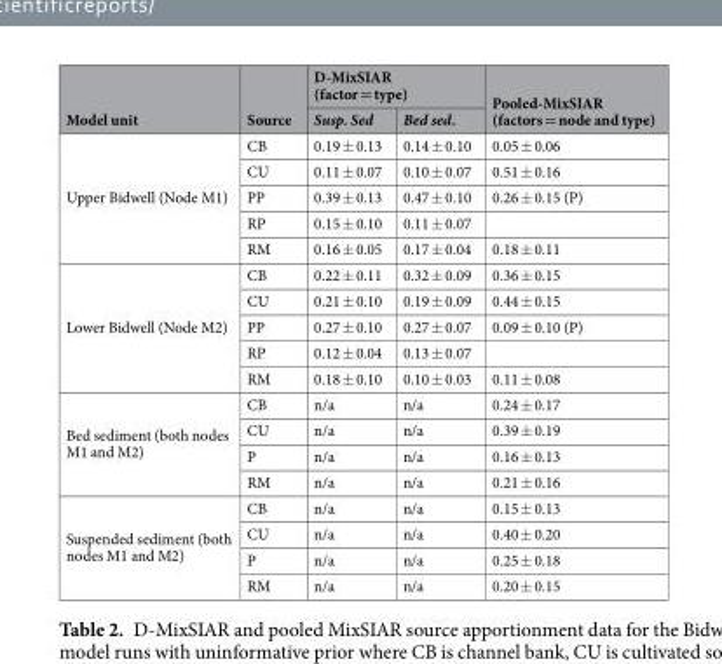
<table><thead><tr><td rowspan="2">Model unit</td><td rowspan="2">Source</td><td colspan="2">D-MixSIAR (factor = type)</td><td rowspan="2">Pooled-MixSIAR (factors = node and type)</td></tr><tr><td>Susp. Sed</td><td>Bed sed.</td></tr></thead><tbody><tr><td rowspan="5">Upper Bidwell (Node M1)</td><td>CB</td><td>0.19 ± 0.13</td><td>0.14 ± 0.10</td><td>0.05 ± 0.06</td></tr><tr><td>CU</td><td>0.11 ± 0.07</td><td>0.10 ± 0.07</td><td>0.51 ± 0.16</td></tr><tr><td>PP</td><td>0.39 ± 0.13</td><td>0.47 ± 0.10</td><td>0.26 ± 0.15 (P)</td></tr><tr><td>RP</td><td>0.15 ± 0.10</td><td>0.11 ± 0.07</td><td></td></tr><tr><td>RM</td><td>0.16 ± 0.05</td><td>0.17 ± 0.04</td><td>0.18 ± 0.11</td></tr><tr><td rowspan="5">Lower Bidwell (Node M2)</td><td>CB</td><td>0.22 ± 0.11</td><td>0.32 ± 0.09</td><td>0.36 ± 0.15</td></tr><tr><td>CU</td><td>0.21 ± 0.10</td><td>0.19 ± 0.09</td><td>0.44 ± 0.15</td></tr><tr><td>PP</td><td>0.27 ± 0.10</td><td>0.27 ± 0.07</td><td>0.09 ± 0.10 (P)</td></tr><tr><td>RP</td><td>0.12 ± 0.04</td><td>0.13 ± 0.07</td><td></td></tr><tr><td>RM</td><td>0.18 ± 0.10</td><td>0.10 ± 0.03</td><td>0.11 ± 0.08</td></tr><tr><td rowspan="4">Bed sediment (both nodes M1 and M2)</td><td>CB</td><td>n/a</td><td>n/a</td><td>0.24 ± 0.17</td></tr><tr><td>CU</td><td>n/a</td><td>n/a</td><td>0.39 ± 0.19</td></tr><tr><td>P</td><td>n/a</td><td>n/a</td><td>0.16 ± 0.13</td></tr><tr><td>RM</td><td>n/a</td><td>n/a</td><td>0.21 ± 0.16</td></tr><tr><td rowspan="4">Suspended sediment (both nodes M1 and M2)</td><td>CB</td><td>n/a</td><td>n/a</td><td>0.15 ± 0.13</td></tr><tr><td>CU</td><td>n/a</td><td>n/a</td><td>0.40 ± 0.20</td></tr><tr><td>P</td><td>n/a</td><td>n/a</td><td>0.25 ± 0.18</td></tr><tr><td>RM</td><td>n/a</td><td>n/a</td><td>0.20 ± 0.15</td></tr></tbody></table>